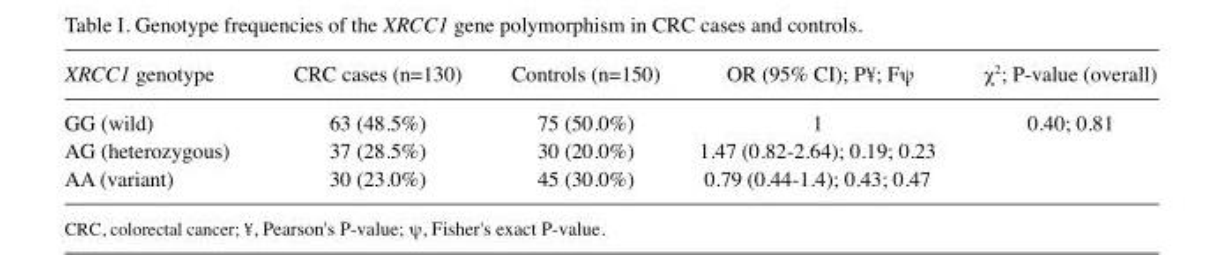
<table><thead><tr><td>XRCC1 genotype</td><td>CRC cases (n=130)</td><td>Controls (n=150)</td><td>OR (95% CI); P¥; Fψ</td><td>χ<sup>2</sup>; P-value (overall)</td></tr></thead><tbody><tr><td>GG (wild)</td><td>63 (48.5%)</td><td>75 (50.0%)</td><td>1</td><td>0.40; 0.81</td></tr><tr><td>AG (heterozygous)</td><td>37 (28.5%)</td><td>30 (20.0%)</td><td>1.47 (0.82-2.64); 0.19; 0.23</td><td></td></tr><tr><td>AA (variant)</td><td>30 (23.0%)</td><td>45 (30.0%)</td><td>0.79 (0.44-1.4); 0.43; 0.47</td><td></td></tr></tbody></table>